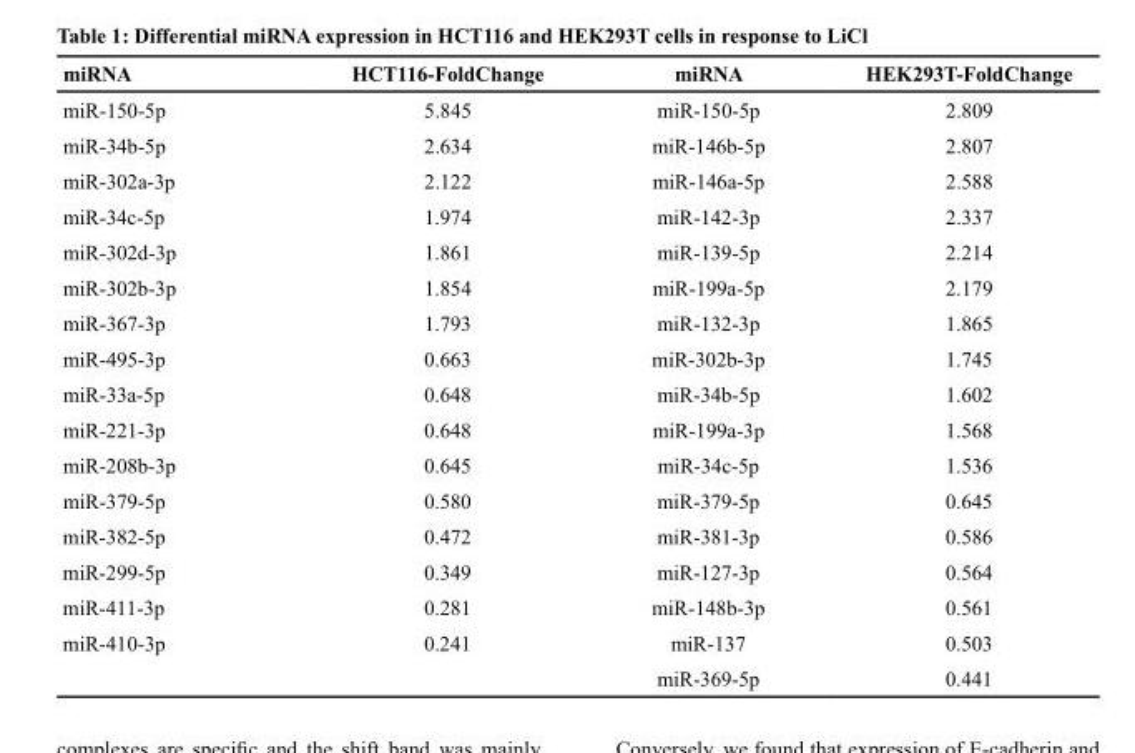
<table><thead><tr><td>miRNA</td><td>HCT116-FoldChange</td><td>miRNA</td><td>HEK293T-FoldChange</td></tr></thead><tbody><tr><td>miR-150-5p</td><td>5.845</td><td>miR-150-5p</td><td>2.809</td></tr><tr><td>miR-34b-5p</td><td>2.634</td><td>miR-146b-5p</td><td>2.807</td></tr><tr><td>miR-302a-3p</td><td>2.122</td><td>miR-146a-5p</td><td>2.588</td></tr><tr><td>miR-34c-5p</td><td>1.974</td><td>miR-142-3p</td><td>2.337</td></tr><tr><td>miR-302d-3p</td><td>1.861</td><td>miR-139-5p</td><td>2.214</td></tr><tr><td>miR-302b-3p</td><td>1.854</td><td>miR-199a-5p</td><td>2.179</td></tr><tr><td>miR-367-3p</td><td>1.793</td><td>miR-132-3p</td><td>1.865</td></tr><tr><td>miR-495-3p</td><td>0.663</td><td>miR-302b-3p</td><td>1.745</td></tr><tr><td>miR-33a-5p</td><td>0.648</td><td>miR-34b-5p</td><td>1.602</td></tr><tr><td>miR-221-3p</td><td>0.648</td><td>miR-199a-3p</td><td>1.568</td></tr><tr><td>miR-208b-3p</td><td>0.645</td><td>miR-34c-5p</td><td>1.536</td></tr><tr><td>miR-379-5p</td><td>0.580</td><td>miR-379-5p</td><td>0.645</td></tr><tr><td>miR-382-5p</td><td>0.472</td><td>miR-381-3p</td><td>0.586</td></tr><tr><td>miR-299-5p</td><td>0.349</td><td>miR-127-3p</td><td>0.564</td></tr><tr><td>miR-411-3p</td><td>0.281</td><td>miR-148b-3p</td><td>0.561</td></tr><tr><td rowspan="2">miR-410-3p</td><td>0.241</td><td>miR-137</td><td>0.503</td></tr><tr><td></td><td>miR-369-5p</td><td>0.441</td></tr></tbody></table>